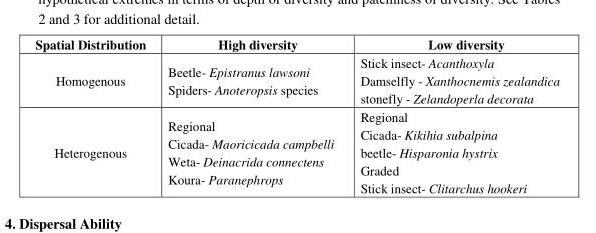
<table><thead><tr><td>Spatial Distribution</td><td>High diversity</td><td>Low diversity</td></tr></thead><tbody><tr><td>Homogenous</td><td>Beetle- Epistranus lawsoni Spiders- Anoteropsis species</td><td>Stick insect- Acanthoxyla Damselfly - Xanthocnemis zealandica stonefly - Zelandoperla decorata</td></tr><tr><td>Heterogenous</td><td>Regional Cicada- Maoricicada campbelli Weta- Deinacrida connectens Koura- Paranephrops</td><td>Regional Cicada- Kikihia subalpina beetle- Hisparonia hystrix Graded Stick insect- Clitarchus hookeri</td></tr></tbody></table>